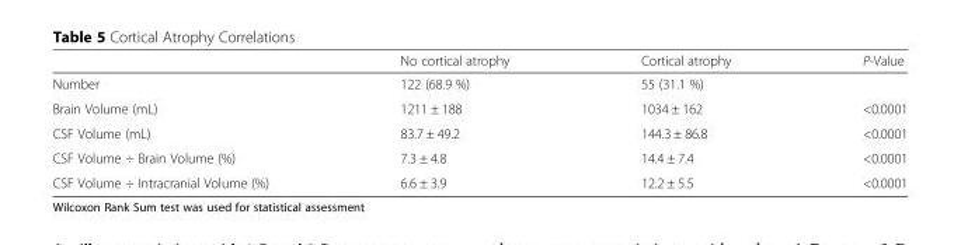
<table><thead><tr><td></td><td>No cortical atrophy</td><td>Cortical atrophy</td><td>P-Value</td></tr></thead><tbody><tr><td>Number</td><td>122 (68.9 %)</td><td>55 (31.1 %)</td><td></td></tr><tr><td>Brain Volume (mL)</td><td>1211 ± 188</td><td>1034 ± 162</td><td>&lt;0.0001</td></tr><tr><td>CSF Volume (mL)</td><td>83.7 ± 49.2</td><td>144.3 ± 86.8</td><td>&lt;0.0001</td></tr><tr><td>CSF Volume ÷ Brain Volume (%)</td><td>7.3 ± 4.8</td><td>14.4 ± 7.4</td><td>&lt;0.0001</td></tr><tr><td>CSF Volume ÷ Intracranial Volume (%)</td><td>6.6 ± 3.9</td><td>12.2 ± 5.5</td><td>&lt;0.0001</td></tr></tbody></table>